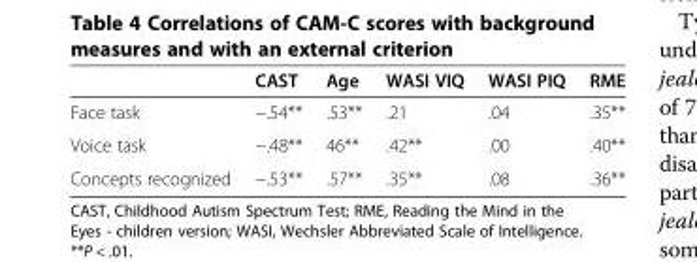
<table><thead><tr><td></td><td>CAST</td><td>Age</td><td>WASI VIQ</td><td>WASI PIQ</td><td>RME</td></tr></thead><tbody><tr><td>Face task</td><td>−.54**</td><td>.53**</td><td>.21</td><td>.04</td><td>.35**</td></tr><tr><td>Voice task</td><td>−.48**</td><td>46**</td><td>.42**</td><td>.00</td><td>.40**</td></tr><tr><td>Concepts recognized</td><td>−.53**</td><td>.57**</td><td>.35**</td><td>.08</td><td>.36**</td></tr></tbody></table>